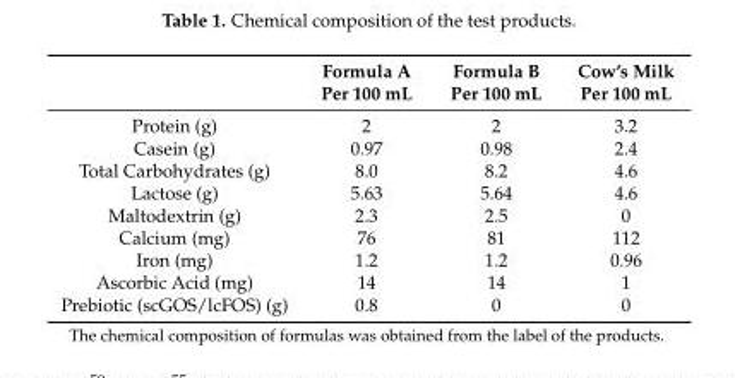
<table><thead><tr><td></td><td>Formula A Per 100 mL</td><td>Formula B Per 100 mL</td><td>Cow’s Milk Per 100 mL</td></tr></thead><tbody><tr><td>Protein (g)</td><td>2</td><td>2</td><td>3.2</td></tr><tr><td>Casein (g)</td><td>0.97</td><td>0.98</td><td>2.4</td></tr><tr><td>Total Carbohydrates (g)</td><td>8.0</td><td>8.2</td><td>4.6</td></tr><tr><td>Lactose (g)</td><td>5.63</td><td>5.64</td><td>4.6</td></tr><tr><td>Maltodextrin (g)</td><td>2.3</td><td>2.5</td><td>0</td></tr><tr><td>Calcium (mg)</td><td>76</td><td>81</td><td>112</td></tr><tr><td>Iron (mg)</td><td>1.2</td><td>1.2</td><td>0.96</td></tr><tr><td>Ascorbic Acid (mg)</td><td>14</td><td>14</td><td>1</td></tr><tr><td>Prebiotic (scGOS/lcFOS) (g)</td><td>0.8</td><td>0</td><td>0</td></tr></tbody></table>